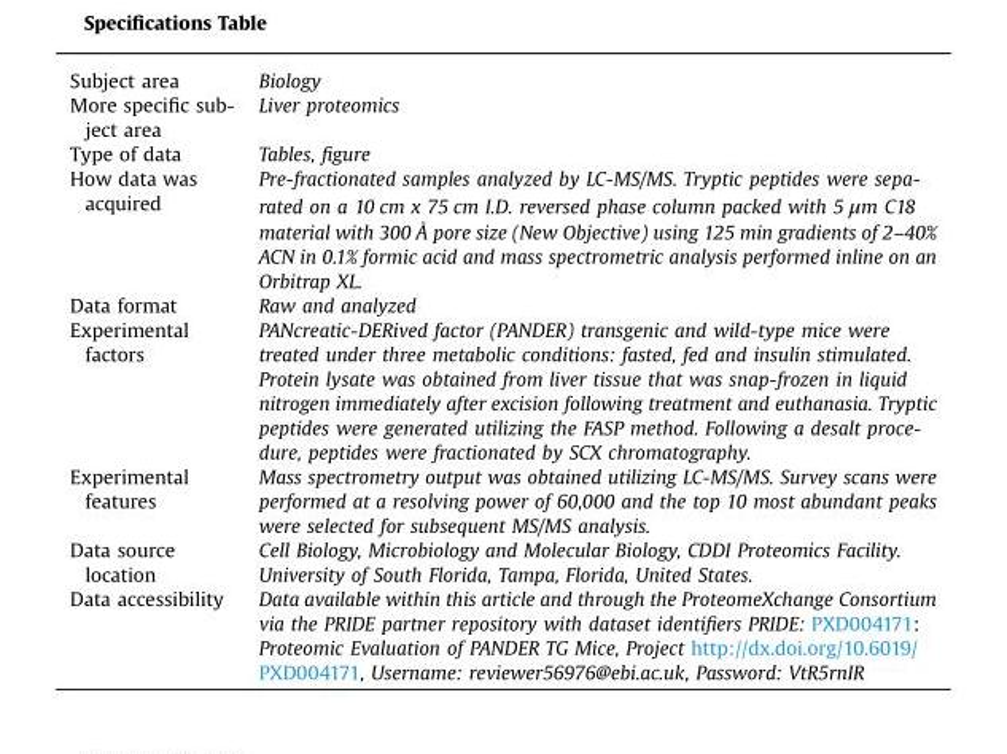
<table><tbody><tr><td>Subject area</td><td>Biology</td></tr><tr><td>More specific sub- ject area</td><td>Liver proteomics</td></tr><tr><td>Type of data</td><td>Tables, figure</td></tr><tr><td>How data was acquired</td><td>Pre-fractionated samples analyzed by LC-MS/MS. Tryptic peptides were sepa- rated on a 10 cm x 75 cm I.D. reversed phase column packed with 5 μm C18 material with 300 Å pore size (New Objective) using 125 min gradients of 2–40% ACN in 0.1% formic acid and mass spectrometric analysis performed inline on an Orbitrap XL.</td></tr><tr><td>Data format</td><td>Raw and analyzed</td></tr><tr><td>Experimental factors</td><td>PANcreatic-DERived factor (PANDER) transgenic and wild-type mice were treated under three metabolic conditions: fasted, fed and insulin stimulated. Protein lysate was obtained from liver tissue that was snap-frozen in liquid nitrogen immediately after excision following treatment and euthanasia. Tryptic peptides were generated utilizing the FASP method. Following a desalt proce- dure, peptides were fractionated by SCX chromatography.</td></tr><tr><td>Experimental features</td><td>Mass spectrometry output was obtained utilizing LC-MS/MS. Survey scans were performed at a resolving power of 60,000 and the top 10 most abundant peaks were selected for subsequent MS/MS analysis.</td></tr><tr><td>Data source location</td><td>Cell Biology, Microbiology and Molecular Biology, CDDI Proteomics Facility. University of South Florida, Tampa, Florida, United States.</td></tr><tr><td>Data accessibility</td><td>Data available within this article and through the ProteomeXchange Consortium via the PRIDE partner repository with dataset identifiers PRIDE: PXD004171: Proteomic Evaluation of PANDER TG Mice, Project http://dx.doi.org/10.6019/ PXD004171, Username: reviewer56976@ebi.ac.uk, Password: VtR5rnIR</td></tr></tbody></table>